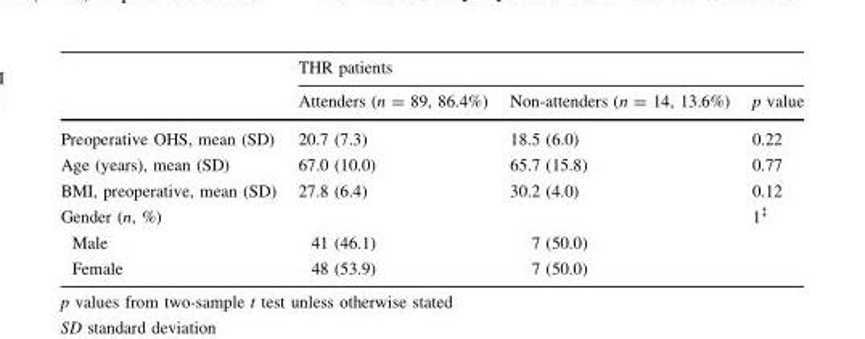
<table><thead><tr><td rowspan="2"></td><td colspan="3">THR patients</td></tr><tr><td>Attenders (n = 89, 86.4%)</td><td>Non-attenders (n = 14, 13.6%)</td><td>p value</td></tr></thead><tbody><tr><td>Preoperative OHS, mean (SD)</td><td>20.7 (7.3)</td><td>18.5 (6.0)</td><td>0.22</td></tr><tr><td>Age (years), mean (SD)</td><td>67.0 (10.0)</td><td>65.7 (15.8)</td><td>0.77</td></tr><tr><td>BMI, preoperative, mean (SD)</td><td>27.8 (6.4)</td><td>30.2 (4.0)</td><td>0.12</td></tr><tr><td>Gender (n, %)</td><td></td><td></td><td>1<sup>‡</sup></td></tr><tr><td>Male</td><td>41 (46.1)</td><td>7 (50.0)</td><td></td></tr><tr><td>Female</td><td>48 (53.9)</td><td>7 (50.0)</td><td></td></tr></tbody></table>